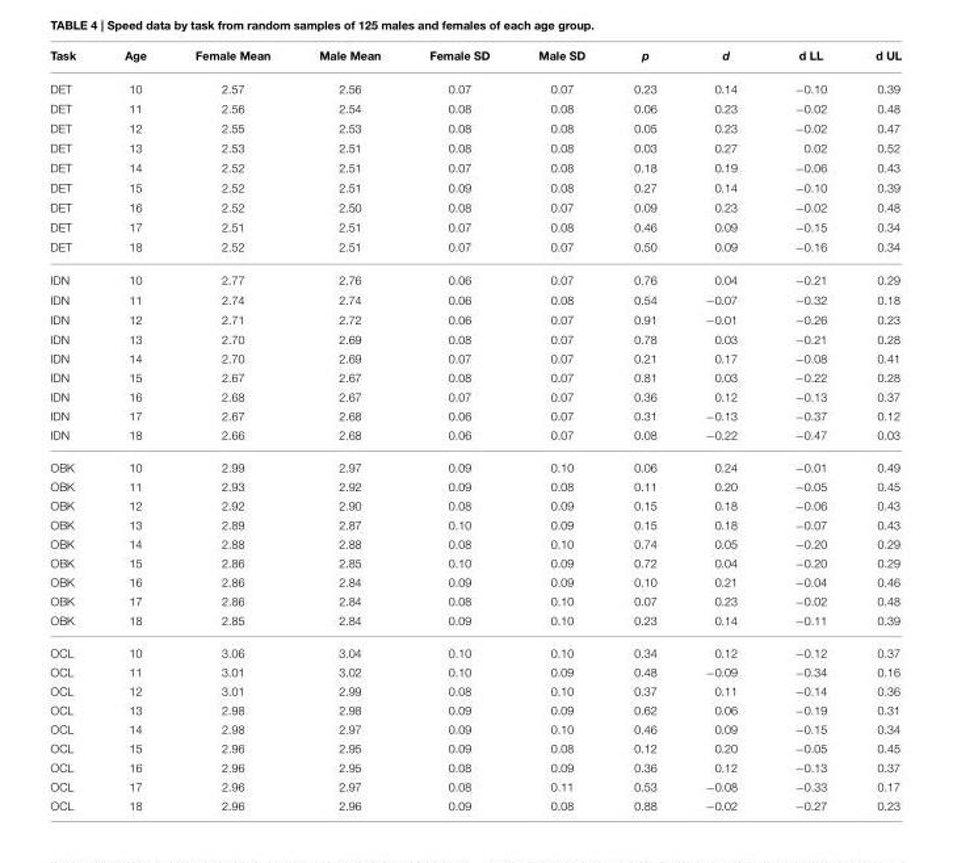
<table><thead><tr><td>Task</td><td>Age</td><td>Female Mean</td><td>Male Mean</td><td>Female SD</td><td>Male SD</td><td>p</td><td>d</td><td>d LL</td><td>d UL</td></tr></thead><tbody><tr><td>DET</td><td>10</td><td>2.57</td><td>2.56</td><td>0.07</td><td>0.07</td><td>0.23</td><td>0.14</td><td>−0.10</td><td>0.39</td></tr><tr><td>DET</td><td>11</td><td>2.56</td><td>2.54</td><td>0.08</td><td>0.08</td><td>0.06</td><td>0.23</td><td>−0.02</td><td>0.48</td></tr><tr><td>DET</td><td>12</td><td>2.55</td><td>2.53</td><td>0.08</td><td>0.08</td><td>0.05</td><td>0.23</td><td>−0.02</td><td>0.47</td></tr><tr><td>DET</td><td>13</td><td>2.53</td><td>2.51</td><td>0.08</td><td>0.08</td><td>0.03</td><td>0.27</td><td>0.02</td><td>0.52</td></tr><tr><td>DET</td><td>14</td><td>2.52</td><td>2.51</td><td>0.07</td><td>0.08</td><td>0.18</td><td>0.19</td><td>−0.06</td><td>0.43</td></tr><tr><td>DET</td><td>15</td><td>2.52</td><td>2.51</td><td>0.09</td><td>0.08</td><td>0.27</td><td>0.14</td><td>−0.10</td><td>0.39</td></tr><tr><td>DET</td><td>16</td><td>2.52</td><td>2.50</td><td>0.08</td><td>0.07</td><td>0.09</td><td>0.23</td><td>−0.02</td><td>0.48</td></tr><tr><td>DET</td><td>17</td><td>2.51</td><td>2.51</td><td>0.07</td><td>0.08</td><td>0.46</td><td>0.09</td><td>−0.15</td><td>0.34</td></tr><tr><td>DET</td><td>18</td><td>2.52</td><td>2.51</td><td>0.07</td><td>0.07</td><td>0.50</td><td>0.09</td><td>−0.16</td><td>0.34</td></tr><tr><td>IDN</td><td>10</td><td>2.77</td><td>2.76</td><td>0.06</td><td>0.07</td><td>0.76</td><td>0.04</td><td>−0.21</td><td>0.29</td></tr><tr><td>IDN</td><td>11</td><td>2.74</td><td>2.74</td><td>0.06</td><td>0.08</td><td>0.54</td><td>−0.07</td><td>−0.32</td><td>0.18</td></tr><tr><td>IDN</td><td>12</td><td>2.71</td><td>2.72</td><td>0.06</td><td>0.07</td><td>0.91</td><td>−0.01</td><td>−0.26</td><td>0.23</td></tr><tr><td>IDN</td><td>13</td><td>2.70</td><td>2.69</td><td>0.08</td><td>0.07</td><td>0.78</td><td>0.03</td><td>−0.21</td><td>0.28</td></tr><tr><td>IDN</td><td>14</td><td>2.70</td><td>2.69</td><td>0.07</td><td>0.07</td><td>0.21</td><td>0.17</td><td>−0.08</td><td>0.41</td></tr><tr><td>IDN</td><td>15</td><td>2.67</td><td>2.67</td><td>0.08</td><td>0.07</td><td>0.81</td><td>0.03</td><td>−0.22</td><td>0.28</td></tr><tr><td>IDN</td><td>16</td><td>2.68</td><td>2.67</td><td>0.07</td><td>0.07</td><td>0.36</td><td>0.12</td><td>−0.13</td><td>0.37</td></tr><tr><td>IDN</td><td>17</td><td>2.67</td><td>2.68</td><td>0.06</td><td>0.07</td><td>0.31</td><td>−0.13</td><td>−0.37</td><td>0.12</td></tr><tr><td>IDN</td><td>18</td><td>2.66</td><td>2.68</td><td>0.06</td><td>0.07</td><td>0.08</td><td>−0.22</td><td>−0.47</td><td>0.03</td></tr><tr><td>OBK</td><td>10</td><td>2.99</td><td>2.97</td><td>0.09</td><td>0.10</td><td>0.06</td><td>0.24</td><td>−0.01</td><td>0.49</td></tr><tr><td>OBK</td><td>11</td><td>2.93</td><td>2.92</td><td>0.09</td><td>0.08</td><td>0.11</td><td>0.20</td><td>−0.05</td><td>0.45</td></tr><tr><td>OBK</td><td>12</td><td>2.92</td><td>2.90</td><td>0.08</td><td>0.09</td><td>0.15</td><td>0.18</td><td>−0.06</td><td>0.43</td></tr><tr><td>OBK</td><td>13</td><td>2.89</td><td>2.87</td><td>0.10</td><td>0.09</td><td>0.15</td><td>0.18</td><td>−0.07</td><td>0.43</td></tr><tr><td>OBK</td><td>14</td><td>2.88</td><td>2.88</td><td>0.08</td><td>0.10</td><td>0.74</td><td>0.05</td><td>−0.20</td><td>0.29</td></tr><tr><td>OBK</td><td>15</td><td>2.86</td><td>2.85</td><td>0.10</td><td>0.09</td><td>0.72</td><td>0.04</td><td>−0.20</td><td>0.29</td></tr><tr><td>OBK</td><td>16</td><td>2.86</td><td>2.84</td><td>0.09</td><td>0.09</td><td>0.10</td><td>0.21</td><td>−0.04</td><td>0.46</td></tr><tr><td>OBK</td><td>17</td><td>2.86</td><td>2.84</td><td>0.08</td><td>0.10</td><td>0.07</td><td>0.23</td><td>−0.02</td><td>0.48</td></tr><tr><td>OBK</td><td>18</td><td>2.85</td><td>2.84</td><td>0.09</td><td>0.10</td><td>0.23</td><td>0.14</td><td>−0.11</td><td>0.39</td></tr><tr><td>OCL</td><td>10</td><td>3.06</td><td>3.04</td><td>0.10</td><td>0.10</td><td>0.34</td><td>0.12</td><td>−0.12</td><td>0.37</td></tr><tr><td>OCL</td><td>11</td><td>3.01</td><td>3.02</td><td>0.10</td><td>0.09</td><td>0.48</td><td>−0.09</td><td>−0.34</td><td>0.16</td></tr><tr><td>OCL</td><td>12</td><td>3.01</td><td>2.99</td><td>0.08</td><td>0.10</td><td>0.37</td><td>0.11</td><td>−0.14</td><td>0.36</td></tr><tr><td>OCL</td><td>13</td><td>2.98</td><td>2.98</td><td>0.09</td><td>0.09</td><td>0.62</td><td>0.06</td><td>−0.19</td><td>0.31</td></tr><tr><td>OCL</td><td>14</td><td>2.98</td><td>2.97</td><td>0.09</td><td>0.10</td><td>0.46</td><td>0.09</td><td>−0.15</td><td>0.34</td></tr><tr><td>OCL</td><td>15</td><td>2.96</td><td>2.95</td><td>0.09</td><td>0.08</td><td>0.12</td><td>0.20</td><td>−0.05</td><td>0.45</td></tr><tr><td>OCL</td><td>16</td><td>2.96</td><td>2.95</td><td>0.08</td><td>0.09</td><td>0.36</td><td>0.12</td><td>−0.13</td><td>0.37</td></tr><tr><td>OCL</td><td>17</td><td>2.96</td><td>2.97</td><td>0.08</td><td>0.11</td><td>0.53</td><td>−0.08</td><td>−0.33</td><td>0.17</td></tr><tr><td>OCL</td><td>18</td><td>2.96</td><td>2.96</td><td>0.09</td><td>0.08</td><td>0.88</td><td>−0.02</td><td>−0.27</td><td>0.23</td></tr></tbody></table>